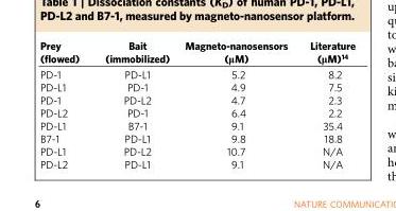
<table><thead><tr><td>Prey (flowed)</td><td>Bait (immobilized)</td><td>Magneto-nanosensors (μM)</td><td>Literature (μM)<sup>14</sup></td></tr></thead><tbody><tr><td>PD-1</td><td>PD-L1</td><td>5.2</td><td>8.2</td></tr><tr><td>PD-L1</td><td>PD-1</td><td>4.9</td><td>7.5</td></tr><tr><td>PD-1</td><td>PD-L2</td><td>4.7</td><td>2.3</td></tr><tr><td>PD-L2</td><td>PD-1</td><td>6.4</td><td>2.2</td></tr><tr><td>PD-L1</td><td>B7-1</td><td>9.1</td><td>35.4</td></tr><tr><td>B7-1</td><td>PD-L1</td><td>9.8</td><td>18.8</td></tr><tr><td>PD-L1</td><td>PD-L2</td><td>10.7</td><td>N/A</td></tr><tr><td>PD-L2</td><td>PD-L1</td><td>9.1</td><td>N/A</td></tr></tbody></table>